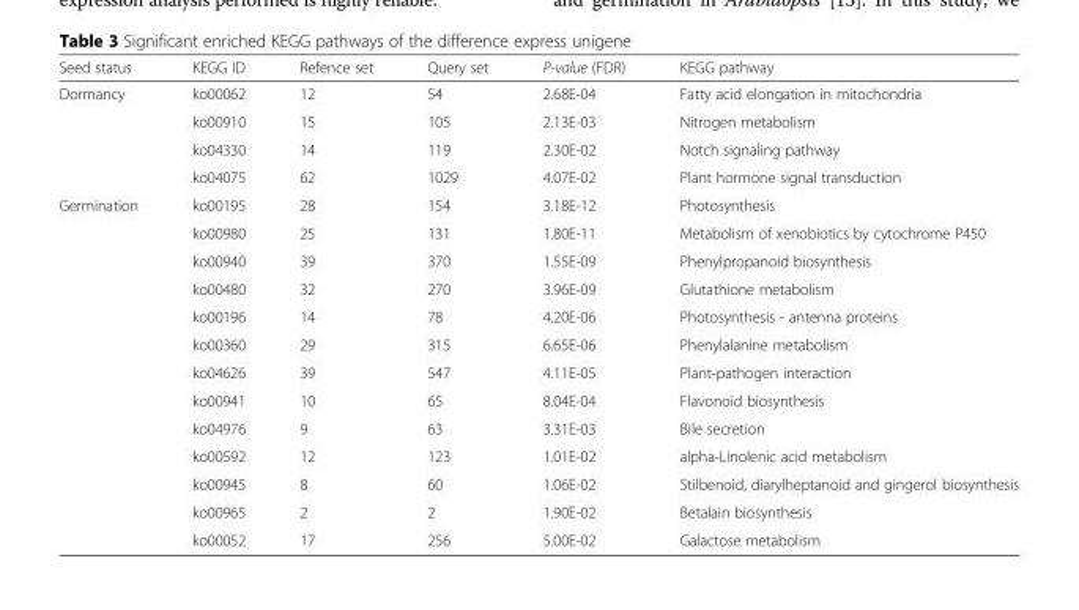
<table><thead><tr><td>Seed status</td><td>KEGG ID</td><td>Refence set</td><td>Query set</td><td>P-value (FDR)</td><td>KEGG pathway</td></tr></thead><tbody><tr><td rowspan="4">Dormancy</td><td>ko00062</td><td>12</td><td>54</td><td>2.68E-04</td><td>Fatty acid elongation in mitochondria</td></tr><tr><td>ko00910</td><td>15</td><td>105</td><td>2.13E-03</td><td>Nitrogen metabolism</td></tr><tr><td>ko04330</td><td>14</td><td>119</td><td>2.30E-02</td><td>Notch signaling pathway</td></tr><tr><td>ko04075</td><td>62</td><td>1029</td><td>4.07E-02</td><td>Plant hormone signal transduction</td></tr><tr><td rowspan="13">Germination</td><td>ko00195</td><td>28</td><td>154</td><td>3.18E-12</td><td>Photosynthesis</td></tr><tr><td>ko00980</td><td>25</td><td>131</td><td>1.80E-11</td><td>Metabolism of xenobiotics by cytochrome P450</td></tr><tr><td>ko00940</td><td>39</td><td>370</td><td>1.55E-09</td><td>Phenylpropanoid biosynthesis</td></tr><tr><td>ko00480</td><td>32</td><td>270</td><td>3.96E-09</td><td>Glutathione metabolism</td></tr><tr><td>ko00196</td><td>14</td><td>78</td><td>4.20E-06</td><td>Photosynthesis - antenna proteins</td></tr><tr><td>ko00360</td><td>29</td><td>315</td><td>6.65E-06</td><td>Phenylalanine metabolism</td></tr><tr><td>ko04626</td><td>39</td><td>547</td><td>4.11E-05</td><td>Plant-pathogen interaction</td></tr><tr><td>ko00941</td><td>10</td><td>65</td><td>8.04E-04</td><td>Flavonoid biosynthesis</td></tr><tr><td>ko04976</td><td>9</td><td>63</td><td>3.31E-03</td><td>Bile secretion</td></tr><tr><td>ko00592</td><td>12</td><td>123</td><td>1.01E-02</td><td>alpha-Linolenic acid metabolism</td></tr><tr><td>ko00945</td><td>8</td><td>60</td><td>1.06E-02</td><td>Stilbenoid, diarylheptanoid and gingerol biosynthesis</td></tr><tr><td>ko00965</td><td>2</td><td>2</td><td>1.90E-02</td><td>Betalain biosynthesis</td></tr><tr><td>ko00052</td><td>17</td><td>256</td><td>5.00E-02</td><td>Galactose metabolism</td></tr></tbody></table>